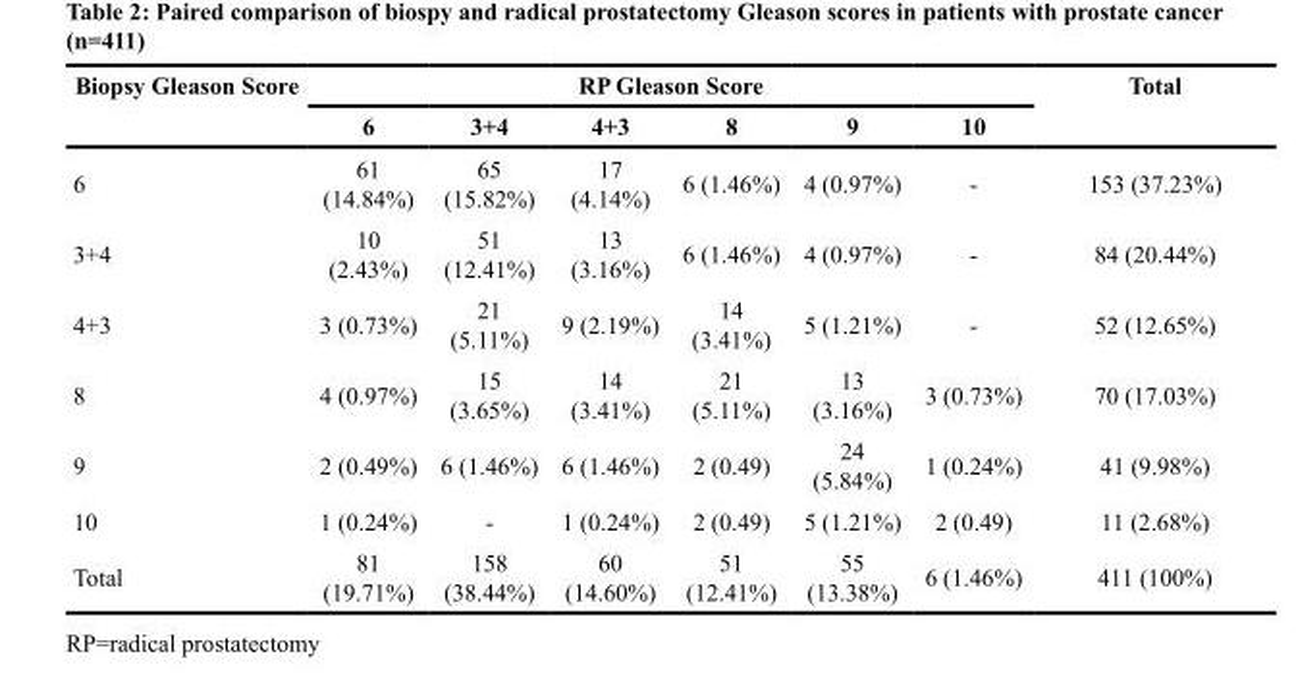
<table><thead><tr><td rowspan="2">Biopsy Gleason Score</td><td colspan="6">RP Gleason Score</td><td rowspan="2">Total</td></tr><tr><td>6</td><td>3+4</td><td>4+3</td><td>8</td><td>9</td><td>10</td></tr></thead><tbody><tr><td>6</td><td>61 (14.84%)</td><td>65 (15.82%)</td><td>17 (4.14%)</td><td>6 (1.46%)</td><td>4 (0.97%)</td><td>-</td><td>153 (37.23%)</td></tr><tr><td>3+4</td><td>10 (2.43%)</td><td>51 (12.41%)</td><td>13 (3.16%)</td><td>6 (1.46%)</td><td>4 (0.97%)</td><td>-</td><td>84 (20.44%)</td></tr><tr><td>4+3</td><td>3 (0.73%)</td><td>21 (5.11%)</td><td>9 (2.19%)</td><td>14 (3.41%)</td><td>5 (1.21%)</td><td>-</td><td>52 (12.65%)</td></tr><tr><td>8</td><td>4 (0.97%)</td><td>15 (3.65%)</td><td>14 (3.41%)</td><td>21 (5.11%)</td><td>13 (3.16%)</td><td>3 (0.73%)</td><td>70 (17.03%)</td></tr><tr><td>9</td><td>2 (0.49%)</td><td>6 (1.46%)</td><td>6 (1.46%)</td><td>2 (0.49)</td><td>24 (5.84%)</td><td>1 (0.24%)</td><td>41 (9.98%)</td></tr><tr><td>10</td><td>1 (0.24%)</td><td>-</td><td>1 (0.24%)</td><td>2 (0.49)</td><td>5 (1.21%)</td><td>2 (0.49)</td><td>11 (2.68%)</td></tr><tr><td>Total</td><td>81 (19.71%)</td><td>158 (38.44%)</td><td>60 (14.60%)</td><td>51 (12.41%)</td><td>55 (13.38%)</td><td>6 (1.46%)</td><td>411 (100%)</td></tr></tbody></table>